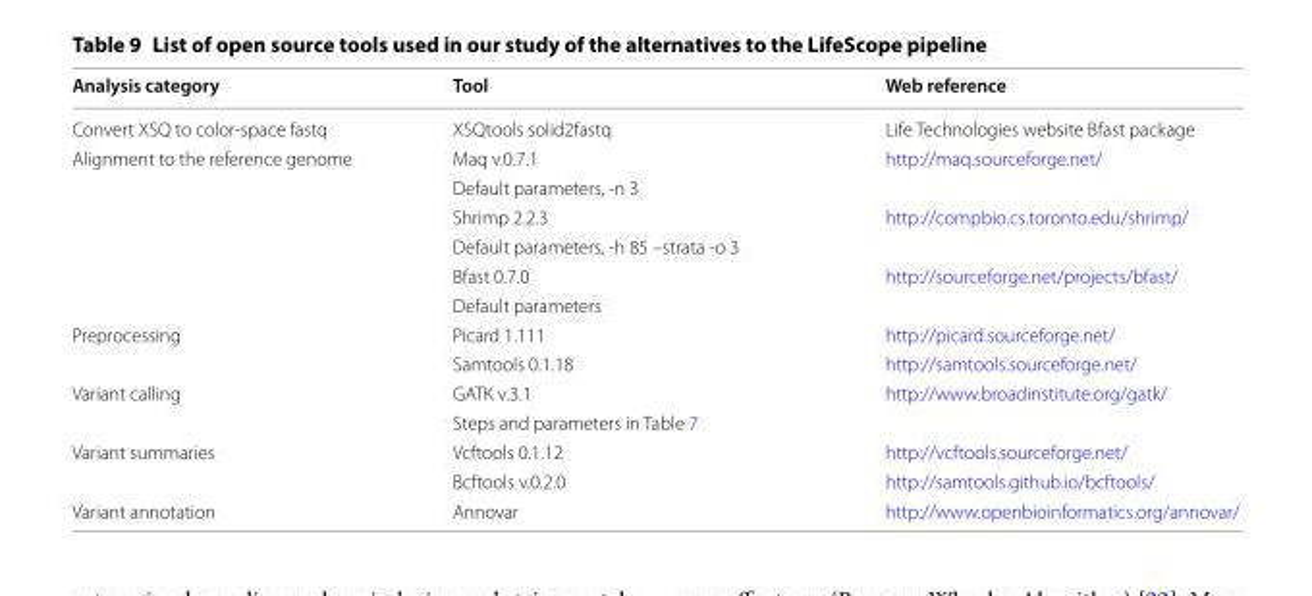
<table><thead><tr><td>Analysis category</td><td>Tool</td><td>Web reference</td></tr></thead><tbody><tr><td>Convert XSQ to color-space fastq</td><td>XSQtools solid2fastq</td><td>Life Technologies website Bfast package</td></tr><tr><td rowspan="6">Alignment to the reference genome</td><td>Maq v.0.7.1</td><td>http://maq.sourceforge.net/</td></tr><tr><td colspan="2">Default parameters, -n 3</td></tr><tr><td>Shrimp 2.2.3</td><td>http://compbio.cs.toronto.edu/shrimp/</td></tr><tr><td colspan="2">Default parameters, -h 85 –strata -o 3</td></tr><tr><td>Bfast 0.7.0</td><td>http://sourceforge.net/projects/bfast/</td></tr><tr><td colspan="2">Default parameters</td></tr><tr><td rowspan="2">Preprocessing</td><td>Picard 1.111</td><td>http://picard.sourceforge.net/</td></tr><tr><td>Samtools 0.1.18</td><td>http://samtools.sourceforge.net/</td></tr><tr><td rowspan="2">Variant calling</td><td>GATK v.3.1</td><td>http://www.broadinstitute.org/gatk/</td></tr><tr><td colspan="2">Steps and parameters in Table 7</td></tr><tr><td rowspan="2">Variant summaries</td><td>Vcftools 0.1.12</td><td>http://vcftools.sourceforge.net/</td></tr><tr><td>Bcftools v.0.2.0</td><td>http://samtools.github.io/bcftools/</td></tr><tr><td>Variant annotation</td><td>Annovar</td><td>http://www.openbioinformatics.org/annovar/</td></tr></tbody></table>